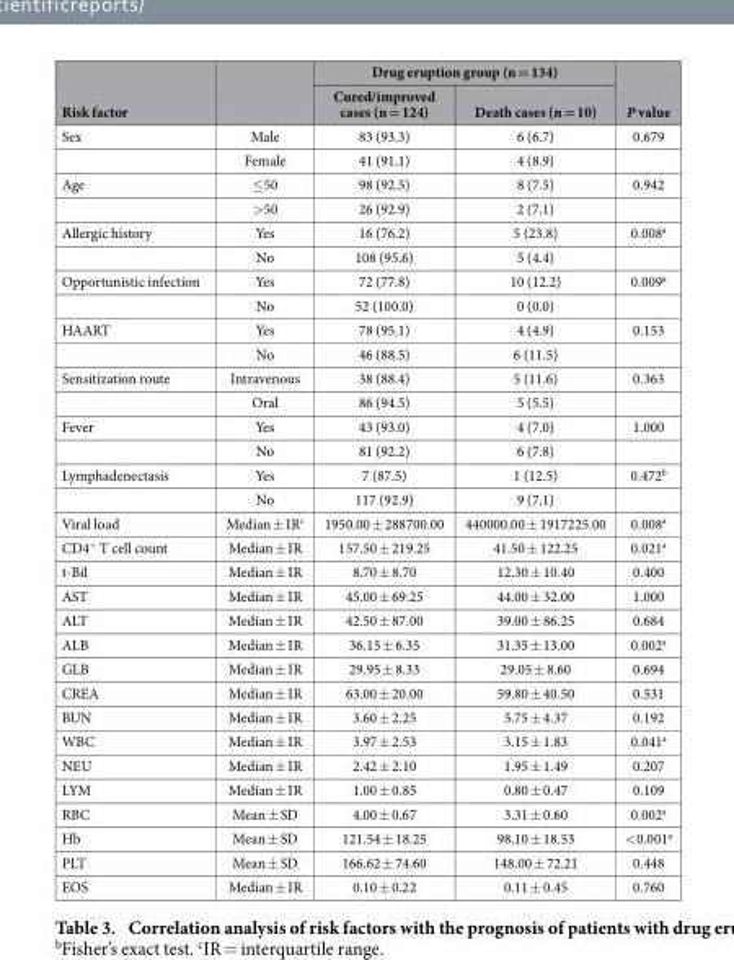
<table><thead><tr><td rowspan="2">Risk factor</td><td rowspan="2"></td><td colspan="2">Drug eruption group (n = 134)</td><td rowspan="2">P value</td></tr><tr><td>Cured/improved cases (n = 124)</td><td>Death cases (n = 10)</td></tr></thead><tbody><tr><td rowspan="2">Sex</td><td>Male</td><td>83 (93.3)</td><td>6 (6.7)</td><td>0.679</td></tr><tr><td>Female</td><td>41 (91.1)</td><td>4 (8.9)</td><td></td></tr><tr><td rowspan="2">Age</td><td>≤ 50</td><td>98 (92.5)</td><td>8 (7.5)</td><td>0.942</td></tr><tr><td>&gt; 50</td><td>26 (92.9)</td><td>2 (7.1)</td><td></td></tr><tr><td rowspan="2">Allergic history</td><td>Yes</td><td>16 (76.2)</td><td>5 (23.8)</td><td>0.008<sup>a</sup></td></tr><tr><td>No</td><td>108 (95.6)</td><td>5 (4.4)</td><td></td></tr><tr><td rowspan="2">Opportunistic infection</td><td>Yes</td><td>72 (77.8)</td><td>10 (12.2)</td><td>0.009<sup>a</sup></td></tr><tr><td>No</td><td>52 (100.0)</td><td>0 (0.0)</td><td></td></tr><tr><td rowspan="2">HAART</td><td>Yes</td><td>78 (95.1)</td><td>4 (4.9)</td><td>0.153</td></tr><tr><td>No</td><td>46 (88.5)</td><td>6 (11.5)</td><td></td></tr><tr><td rowspan="2">Sensitization route</td><td>Intravenous</td><td>38 (88.4)</td><td>5 (11.6)</td><td>0.363</td></tr><tr><td>Oral</td><td>86 (94.5)</td><td>5 (5.5)</td><td></td></tr><tr><td rowspan="2">Fever</td><td>Yes</td><td>43 (93.0)</td><td>4 (7.0)</td><td>1.000</td></tr><tr><td>No</td><td>81 (92.2)</td><td>6 (7.8)</td><td></td></tr><tr><td rowspan="2">Lymphadenectasis</td><td>Yes</td><td>7 (87.5)</td><td>1 (12.5)</td><td>0.472<sup>b</sup></td></tr><tr><td>No</td><td>117 (92.9)</td><td>9 (7.1)</td><td></td></tr><tr><td>Viral load</td><td>Median ± IR<sup>c</sup></td><td>1950.00 ± 288700.00</td><td>440000.00 ± 1917225.00</td><td>0.008<sup>a</sup></td></tr><tr><td>CD4<sup>+</sup> T cell count</td><td>Median ± IR</td><td>157.50 ± 219.25</td><td>41.50 ± 122.25</td><td>0.021<sup>a</sup></td></tr><tr><td>t-Bil</td><td>Median ± IR</td><td>8.70 ± 8.70</td><td>12.30 ± 10.40</td><td>0.400</td></tr><tr><td>AST</td><td>Median ± IR</td><td>45.00 ± 69.25</td><td>44.00 ± 32.00</td><td>1.000</td></tr><tr><td>ALT</td><td>Median ± IR</td><td>42.50 ± 87.00</td><td>39.00 ± 86.25</td><td>0.684</td></tr><tr><td>ALB</td><td>Median ± IR</td><td>36.15 ± 6.35</td><td>31.35 ± 13.00</td><td>0.002<sup>a</sup></td></tr><tr><td>GLB</td><td>Median ± IR</td><td>29.95 ± 8.33</td><td>29.05 ± 8.60</td><td>0.694</td></tr><tr><td>CREA</td><td>Median ± IR</td><td>63.00 ± 20.00</td><td>59.80 ± 40.50</td><td>0.531</td></tr><tr><td>BUN</td><td>Median ± IR</td><td>3.60 ± 2.25</td><td>5.75 ± 4.37</td><td>0.192</td></tr><tr><td>WBC</td><td>Median ± IR</td><td>3.97 ± 2.53</td><td>3.15 ± 1.83</td><td>0.041<sup>a</sup></td></tr><tr><td>NEU</td><td>Median ± IR</td><td>2.42 ± 2.10</td><td>1.95 ± 1.49</td><td>0.207</td></tr><tr><td>LYM</td><td>Median ± IR</td><td>1.00 ± 0.85</td><td>0.80 ± 0.47</td><td>0.109</td></tr><tr><td>RBC</td><td>Mean ± SD</td><td>4.00 ± 0.67</td><td>3.31 ± 0.60</td><td>0.002<sup>a</sup></td></tr><tr><td>Hb</td><td>Mean ± SD</td><td>121.54 ± 18.25</td><td>98.10 ± 18.53</td><td>&lt; 0.001<sup>a</sup></td></tr><tr><td>PLT</td><td>Mean ± SD</td><td>166.62 ± 74.60</td><td>148.00 ± 72.21</td><td>0.448</td></tr><tr><td>EOS</td><td>Median ± IR</td><td>0.10 ± 0.22</td><td>0.11 ± 0.45</td><td>0.760</td></tr></tbody></table>